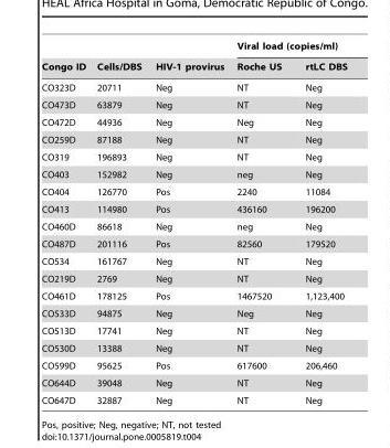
<table><thead><tr><td rowspan="2">Congo ID</td><td rowspan="2">Cells/DBS</td><td rowspan="2">HIV-1 provirus</td><td colspan="2">Viral load (copies/ml)</td></tr><tr><td>Roche US</td><td>rtLC DBS</td></tr></thead><tbody><tr><td>CO323D</td><td>20711</td><td>Neg</td><td>NT</td><td>Neg</td></tr><tr><td>CO473D</td><td>63879</td><td>Neg</td><td>NT</td><td>Neg</td></tr><tr><td>CO472D</td><td>44936</td><td>Neg</td><td>Neg</td><td>Neg</td></tr><tr><td>CO259D</td><td>87188</td><td>Neg</td><td>NT</td><td>Neg</td></tr><tr><td>CO319</td><td>196893</td><td>Neg</td><td>NT</td><td>Neg</td></tr><tr><td>CO403</td><td>152982</td><td>Neg</td><td>neg</td><td>Neg</td></tr><tr><td>CO404</td><td>126770</td><td>Pos</td><td>2240</td><td>11084</td></tr><tr><td>CO413</td><td>114980</td><td>Pos</td><td>436160</td><td>196200</td></tr><tr><td>CO460D</td><td>86618</td><td>Neg</td><td>neg</td><td>Neg</td></tr><tr><td>CO487D</td><td>201116</td><td>Pos</td><td>82560</td><td>179520</td></tr><tr><td>CO534</td><td>161767</td><td>Neg</td><td>NT</td><td>Neg</td></tr><tr><td>CO219D</td><td>2769</td><td>Neg</td><td>NT</td><td>Neg</td></tr><tr><td>CO461D</td><td>178125</td><td>Pos</td><td>1467520</td><td>1,123,400</td></tr><tr><td>CO533D</td><td>94875</td><td>Neg</td><td>Neg</td><td>Neg</td></tr><tr><td>CO513D</td><td>17741</td><td>Neg</td><td>NT</td><td>Neg</td></tr><tr><td>CO530D</td><td>13388</td><td>Neg</td><td>NT</td><td>Neg</td></tr><tr><td>CO599D</td><td>95625</td><td>Pos</td><td>617600</td><td>206,460</td></tr><tr><td>CO644D</td><td>39048</td><td>Neg</td><td>NT</td><td>Neg</td></tr><tr><td>CO647D</td><td>32887</td><td>Neg</td><td>NT</td><td>Neg</td></tr></tbody></table>